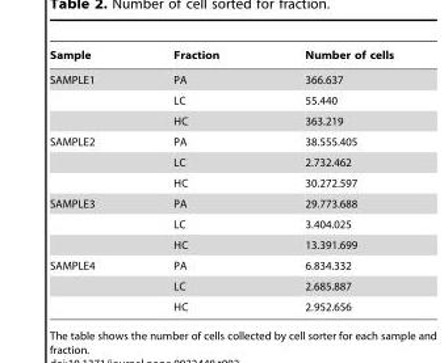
<table><thead><tr><td>Sample</td><td>Fraction</td><td>Number of cells</td></tr></thead><tbody><tr><td rowspan="3">SAMPLE1</td><td>PA</td><td>366.637</td></tr><tr><td>LC</td><td>55.440</td></tr><tr><td>HC</td><td>363.219</td></tr><tr><td rowspan="3">SAMPLE2</td><td>PA</td><td>38.555.405</td></tr><tr><td>LC</td><td>2.732.462</td></tr><tr><td>HC</td><td>30.272.597</td></tr><tr><td rowspan="3">SAMPLE3</td><td>PA</td><td>29.773.688</td></tr><tr><td>LC</td><td>3.404.025</td></tr><tr><td>HC</td><td>13.391.699</td></tr><tr><td rowspan="3">SAMPLE4</td><td>PA</td><td>6.834.332</td></tr><tr><td>LC</td><td>2.685.887</td></tr><tr><td>HC</td><td>2.952.656</td></tr></tbody></table>